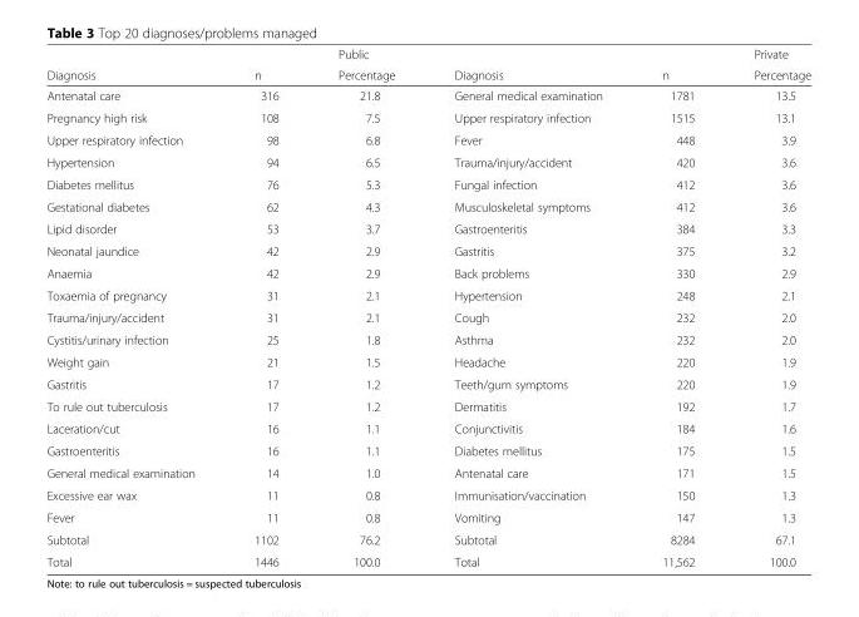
<table><thead><tr><td rowspan="2">Diagnosis</td><td rowspan="2">n</td><td rowspan="2">Public Percentage</td><td rowspan="2">Diagnosis</td><td rowspan="2">n</td><td rowspan="2">Private Percentage</td></tr><tr></tr></thead><tbody><tr><td>Antenatal care</td><td>316</td><td>21.8</td><td>General medical examination</td><td>1781</td><td>13.5</td></tr><tr><td>Pregnancy high risk</td><td>108</td><td>7.5</td><td>Upper respiratory infection</td><td>1515</td><td>13.1</td></tr><tr><td>Upper respiratory infection</td><td>98</td><td>6.8</td><td>Fever</td><td>448</td><td>3.9</td></tr><tr><td>Hypertension</td><td>94</td><td>6.5</td><td>Trauma/injury/accident</td><td>420</td><td>3.6</td></tr><tr><td>Diabetes mellitus</td><td>76</td><td>5.3</td><td>Fungal infection</td><td>412</td><td>3.6</td></tr><tr><td>Gestational diabetes</td><td>62</td><td>4.3</td><td>Musculoskeletal symptoms</td><td>412</td><td>3.6</td></tr><tr><td>Lipid disorder</td><td>53</td><td>3.7</td><td>Gastroenteritis</td><td>384</td><td>3.3</td></tr><tr><td>Neonatal jaundice</td><td>42</td><td>2.9</td><td>Gastritis</td><td>375</td><td>3.2</td></tr><tr><td>Anaemia</td><td>42</td><td>2.9</td><td>Back problems</td><td>330</td><td>2.9</td></tr><tr><td>Toxaemia of pregnancy</td><td>31</td><td>2.1</td><td>Hypertension</td><td>248</td><td>2.1</td></tr><tr><td>Trauma/injury/accident</td><td>31</td><td>2.1</td><td>Cough</td><td>232</td><td>2.0</td></tr><tr><td>Cystitis/urinary infection</td><td>25</td><td>1.8</td><td>Asthma</td><td>232</td><td>2.0</td></tr><tr><td>Weight gain</td><td>21</td><td>1.5</td><td>Headache</td><td>220</td><td>1.9</td></tr><tr><td>Gastritis</td><td>17</td><td>1.2</td><td>Teeth/gum symptoms</td><td>220</td><td>1.9</td></tr><tr><td>To rule out tuberculosis</td><td>17</td><td>1.2</td><td>Dermatitis</td><td>192</td><td>1.7</td></tr><tr><td>Laceration/cut</td><td>16</td><td>1.1</td><td>Conjunctivitis</td><td>184</td><td>1.6</td></tr><tr><td>Gastroenteritis</td><td>16</td><td>1.1</td><td>Diabetes mellitus</td><td>175</td><td>1.5</td></tr><tr><td>General medical examination</td><td>14</td><td>1.0</td><td>Antenatal care</td><td>171</td><td>1.5</td></tr><tr><td>Excessive ear wax</td><td>11</td><td>0.8</td><td>Immunisation/vaccination</td><td>150</td><td>1.3</td></tr><tr><td>Fever</td><td>11</td><td>0.8</td><td>Vomiting</td><td>147</td><td>1.3</td></tr><tr><td>Subtotal</td><td>1102</td><td>76.2</td><td>Subtotal</td><td>8284</td><td>67.1</td></tr><tr><td>Total</td><td>1446</td><td>100.0</td><td>Total</td><td>11,562</td><td>100.0</td></tr></tbody></table>